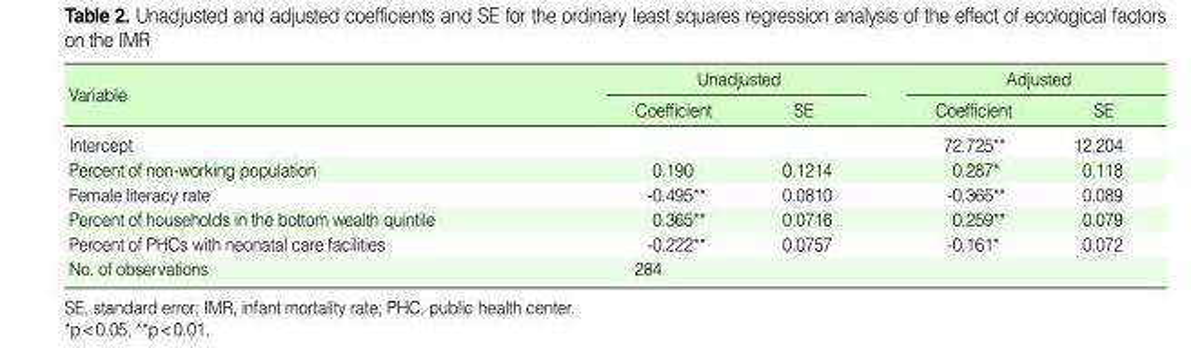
<table><thead><tr><td rowspan="2">Variable</td><td colspan="2">Unadjusted</td><td colspan="2">Adjusted</td></tr><tr><td>Coefficient</td><td>SE</td><td>Coefficient</td><td>SE</td></tr></thead><tbody><tr><td>Intercept</td><td></td><td></td><td>72.725**</td><td>12.204</td></tr><tr><td>Percent of non-working population</td><td>0.190</td><td>0.1214</td><td>0.287*</td><td>0.118</td></tr><tr><td>Female literacy rate</td><td>-0.495**</td><td>0.0810</td><td>-0.365**</td><td>0.089</td></tr><tr><td>Percent of households in the bottom wealth quintile</td><td>0.365**</td><td>0.0716</td><td>0.259**</td><td>0.079</td></tr><tr><td>Percent of PHCs with neonatal care facilities</td><td>-0.222**</td><td>0.0757</td><td>-0.161*</td><td>0.072</td></tr><tr><td>No. of observations</td><td>284</td><td></td><td></td><td></td></tr></tbody></table>